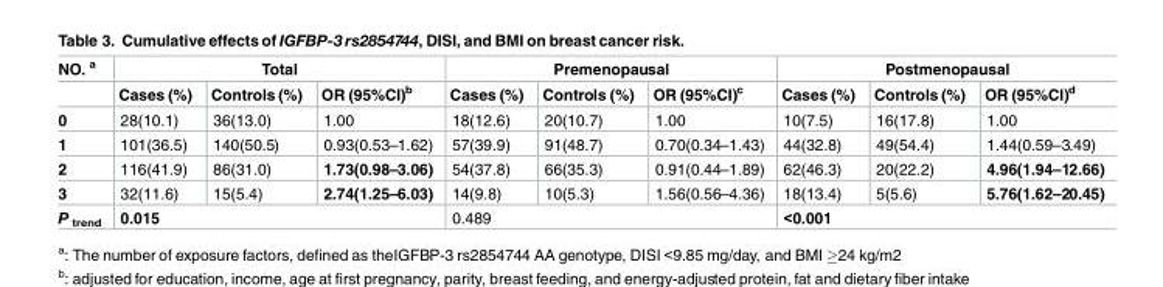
<table><thead><tr><td rowspan="2">NO. <sup>a</sup></td><td colspan="3">Total</td><td colspan="3">Premenopausal</td><td colspan="3">Postmenopausal</td></tr><tr><td>Cases (%)</td><td>Controls (%)</td><td>OR (95%CI)<sup>b</sup></td><td>Cases (%)</td><td>Controls (%)</td><td>OR (95%CI)<sup>c</sup></td><td>Cases (%)</td><td>Controls (%)</td><td>OR (95%CI)<sup>d</sup></td></tr></thead><tbody><tr><td>0</td><td>28(10.1)</td><td>36(13.0)</td><td>1.00</td><td>18(12.6)</td><td>20(10.7)</td><td>1.00</td><td>10(7.5)</td><td>16(17.8)</td><td>1.00</td></tr><tr><td>1</td><td>101(36.5)</td><td>140(50.5)</td><td>0.93(0.53–1.62)</td><td>57(39.9)</td><td>91(48.7)</td><td>0.70(0.34–1.43)</td><td>44(32.8)</td><td>49(54.4)</td><td>1.44(0.59–3.49)</td></tr><tr><td>2</td><td>116(41.9)</td><td>86(31.0)</td><td>1.73(0.98–3.06)</td><td>54(37.8)</td><td>66(35.3)</td><td>0.91(0.44–1.89)</td><td>62(46.3)</td><td>20(22.2)</td><td>4.96(1.94–12.66)</td></tr><tr><td>3</td><td>32(11.6)</td><td>15(5.4)</td><td>2.74(1.25–6.03)</td><td>14(9.8)</td><td>10(5.3)</td><td>1.56(0.56–4.36)</td><td>18(13.4)</td><td>5(5.6)</td><td>5.76(1.62–20.45)</td></tr><tr><td>P <sub>trend</sub></td><td colspan="3">0.015</td><td colspan="3">0.489</td><td colspan="3">&lt;0.001</td></tr></tbody></table>